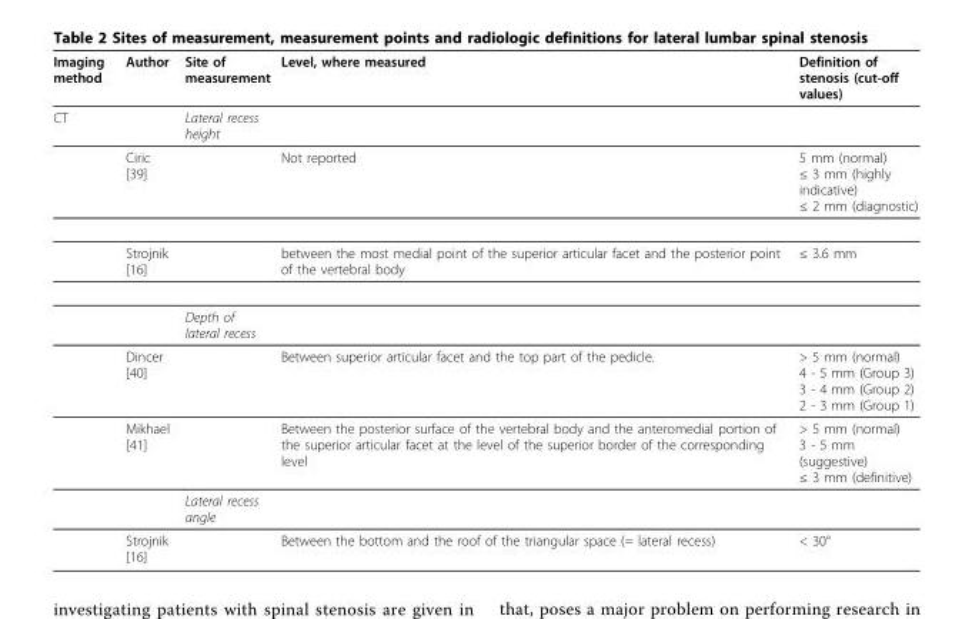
<table><thead><tr><td>Imaging method</td><td>Author</td><td>Site of measurement</td><td>Level, where measured</td><td>Definition of stenosis (cut-off values)</td></tr></thead><tbody><tr><td rowspan="8">CT</td><td></td><td>Lateral recess height</td><td></td><td></td></tr><tr><td>Ciric [39]</td><td></td><td>Not reported</td><td>5 mm (normal) ≤ 3 mm (highly indicative) ≤ 2 mm (diagnostic)</td></tr><tr><td>Strojnik [16]</td><td></td><td>between the most medial point of the superior articular facet and the posterior point of the vertebral body</td><td>≤ 3.6 mm</td></tr><tr><td></td><td>Depth of lateral recess</td><td></td><td></td></tr><tr><td>Dincer [40]</td><td></td><td>Between superior articular facet and the top part of the pedicle.</td><td>&gt; 5 mm (normal) 4 - 5 mm (Group 3) 3 - 4 mm (Group 2) 2 - 3 mm (Group 1)</td></tr><tr><td>Mikhael [41]</td><td></td><td>Between the posterior surface of the vertebral body and the anteromedial portion of the superior articular facet at the level of the superior border of the corresponding level</td><td>&gt; 5 mm (normal) 3 - 5 mm (suggestive) ≤ 3 mm (definitive)</td></tr><tr><td></td><td>Lateral recess angle</td><td></td><td></td></tr><tr><td>Strojnik [16]</td><td></td><td>Between the bottom and the roof of the triangular space (= lateral recess)</td><td>&lt; 30°</td></tr></tbody></table>